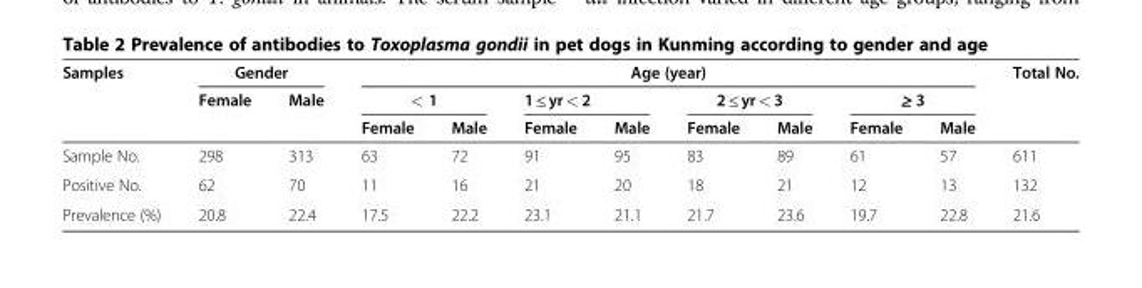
<table><thead><tr><td rowspan="3">Samples</td><td colspan="2">Gender</td><td colspan="8">Age (year)</td><td rowspan="3">Total No.</td></tr><tr><td rowspan="2">Female</td><td rowspan="2">Male</td><td colspan="2">&lt; 1</td><td colspan="2">1 ≤ yr &lt; 2</td><td colspan="2">2 ≤ yr &lt; 3</td><td colspan="2">≥ 3</td></tr><tr><td>Female</td><td>Male</td><td>Female</td><td>Male</td><td>Female</td><td>Male</td><td>Female</td><td>Male</td></tr></thead><tbody><tr><td>Sample No.</td><td>298</td><td>313</td><td>63</td><td>72</td><td>91</td><td>95</td><td>83</td><td>89</td><td>61</td><td>57</td><td>611</td></tr><tr><td>Positive No.</td><td>62</td><td>70</td><td>11</td><td>16</td><td>21</td><td>20</td><td>18</td><td>21</td><td>12</td><td>13</td><td>132</td></tr><tr><td>Prevalence (%)</td><td>20.8</td><td>22.4</td><td>17.5</td><td>22.2</td><td>23.1</td><td>21.1</td><td>21.7</td><td>23.6</td><td>19.7</td><td>22.8</td><td>21.6</td></tr></tbody></table>